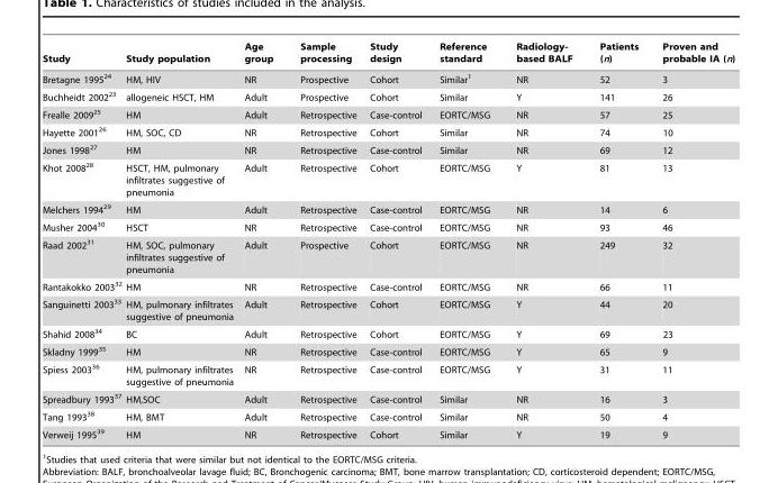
<table><thead><tr><td>Study</td><td>Study population</td><td>Age group</td><td>Sample processing</td><td>Study design</td><td>Reference standard</td><td>Radiology- based BALF</td><td>Patients (n)</td><td>Proven and probable IA (n)</td></tr></thead><tbody><tr><td>Bretagne 1995<sup>24</sup></td><td>HM, HIV</td><td>NR</td><td>Prospective</td><td>Cohort</td><td>Similar<sup>1</sup></td><td>NR</td><td>52</td><td>3</td></tr><tr><td>Buchheidt 2002<sup>23</sup></td><td>allogeneic HSCT, HM</td><td>Adult</td><td>Prospective</td><td>Cohort</td><td>Similar</td><td>Y</td><td>141</td><td>26</td></tr><tr><td>Frealle 2009<sup>25</sup></td><td>HM</td><td>Adult</td><td>Retrospective</td><td>Case-control</td><td>EORTC/MSG</td><td>NR</td><td>57</td><td>25</td></tr><tr><td>Hayette 2001<sup>26</sup></td><td>HM, SOC, CD</td><td>NR</td><td>Retrospective</td><td>Cohort</td><td>Similar</td><td>NR</td><td>74</td><td>10</td></tr><tr><td>Jones 1998<sup>27</sup></td><td>HM</td><td>NR</td><td>Retrospective</td><td>Case-control</td><td>Similar</td><td>NR</td><td>69</td><td>12</td></tr><tr><td>Khot 2008<sup>28</sup></td><td>HSCT, HM, pulmonary infiltrates suggestive of pneumonia</td><td>Adult</td><td>Retrospective</td><td>Cohort</td><td>EORTC/MSG</td><td>Y</td><td>81</td><td>13</td></tr><tr><td>Melchers 1994<sup>29</sup></td><td>HM</td><td>Adult</td><td>Retrospective</td><td>Case-control</td><td>EORTC/MSG</td><td>NR</td><td>14</td><td>6</td></tr><tr><td>Musher 2004<sup>30</sup></td><td>HSCT</td><td>NR</td><td>Retrospective</td><td>Case-control</td><td>EORTC/MSG</td><td>NR</td><td>93</td><td>46</td></tr><tr><td>Raad 2002<sup>31</sup></td><td>HM, SOC, pulmonary infiltrates suggestive of pneumonia</td><td>Adult</td><td>Prospective</td><td>Cohort</td><td>EORTC/MSG</td><td>NR</td><td>249</td><td>32</td></tr><tr><td>Rantakokko 2003<sup>32</sup></td><td>HM</td><td>NR</td><td>Retrospective</td><td>Case-control</td><td>EORTC/MSG</td><td>NR</td><td>66</td><td>11</td></tr><tr><td>Sanguinetti 2003<sup>33</sup></td><td>HM, pulmonary infiltrates suggestive of pneumonia</td><td>Adult</td><td>Retrospective</td><td>Cohort</td><td>EORTC/MSG</td><td>Y</td><td>44</td><td>20</td></tr><tr><td>Shahid 2008<sup>34</sup></td><td>BC</td><td>Adult</td><td>Retrospective</td><td>Cohort</td><td>EORTC/MSG</td><td>Y</td><td>69</td><td>23</td></tr><tr><td>Skladny 1999<sup>35</sup></td><td>HM</td><td>NR</td><td>Retrospective</td><td>Case-control</td><td>EORTC/MSG</td><td>Y</td><td>65</td><td>9</td></tr><tr><td>Spiess 2003<sup>36</sup></td><td>HM, pulmonary infiltrates suggestive of pneumonia</td><td>NR</td><td>Retrospective</td><td>Case-control</td><td>EORTC/MSG</td><td>Y</td><td>31</td><td>11</td></tr><tr><td>Spreadbury 1993<sup>37</sup></td><td>HM,SOC</td><td>Adult</td><td>Retrospective</td><td>Case-control</td><td>Similar</td><td>NR</td><td>16</td><td>3</td></tr><tr><td>Tang 1993<sup>38</sup></td><td>HM, BMT</td><td>Adult</td><td>Retrospective</td><td>Case-control</td><td>Similar</td><td>NR</td><td>50</td><td>4</td></tr><tr><td>Verweij 1995<sup>39</sup></td><td>HM</td><td>NR</td><td>Retrospective</td><td>Cohort</td><td>Similar</td><td>Y</td><td>19</td><td>9</td></tr></tbody></table>